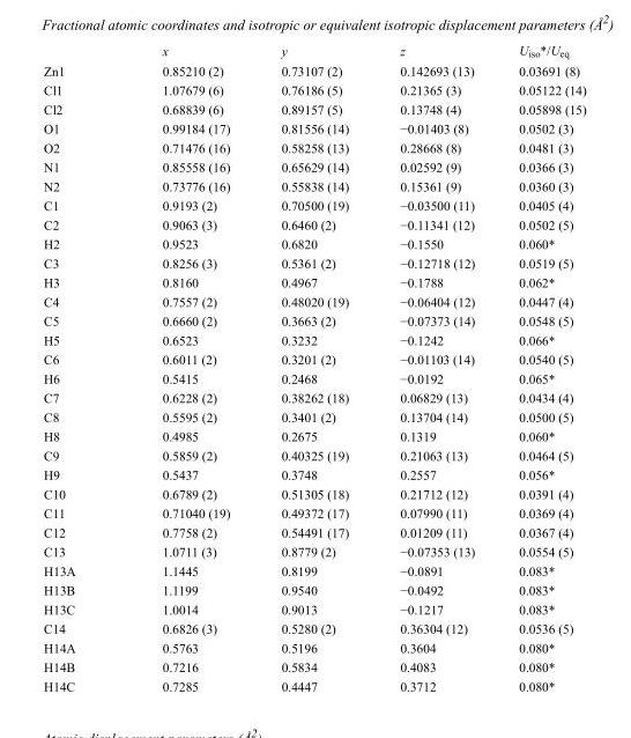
<table><thead><tr><td></td><td>x</td><td>y</td><td>z</td><td>U<sub>iso</sub>*/U<sub>eq</sub></td></tr></thead><tbody><tr><td>Zn1</td><td>0.85210 (2)</td><td>0.73107 (2)</td><td>0.142693 (13)</td><td>0.03691 (8)</td></tr><tr><td>Cl1</td><td>1.07679 (6)</td><td>0.76186 (5)</td><td>0.21365 (3)</td><td>0.05122 (14)</td></tr><tr><td>Cl2</td><td>0.68839 (6)</td><td>0.89157 (5)</td><td>0.13748 (4)</td><td>0.05898 (15)</td></tr><tr><td>O1</td><td>0.99184 (17)</td><td>0.81556 (14)</td><td>−0.01403 (8)</td><td>0.0502 (3)</td></tr><tr><td>O2</td><td>0.71476 (16)</td><td>0.58258 (13)</td><td>0.28668 (8)</td><td>0.0481 (3)</td></tr><tr><td>N1</td><td>0.85558 (16)</td><td>0.65629 (14)</td><td>0.02592 (9)</td><td>0.0366 (3)</td></tr><tr><td>N2</td><td>0.73776 (16)</td><td>0.55838 (14)</td><td>0.15361 (9)</td><td>0.0360 (3)</td></tr><tr><td>C1</td><td>0.9193 (2)</td><td>0.70500 (19)</td><td>−0.03500 (11)</td><td>0.0405 (4)</td></tr><tr><td>C2</td><td>0.9063 (3)</td><td>0.6460 (2)</td><td>−0.11341 (12)</td><td>0.0502 (5)</td></tr><tr><td>H2</td><td>0.9523</td><td>0.6820</td><td>−0.1550</td><td>0.060*</td></tr><tr><td>C3</td><td>0.8256 (3)</td><td>0.5361 (2)</td><td>−0.12718 (12)</td><td>0.0519 (5)</td></tr><tr><td>H3</td><td>0.8160</td><td>0.4967</td><td>−0.1788</td><td>0.062*</td></tr><tr><td>C4</td><td>0.7557 (2)</td><td>0.48020 (19)</td><td>−0.06404 (12)</td><td>0.0447 (4)</td></tr><tr><td>C5</td><td>0.6660 (2)</td><td>0.3663 (2)</td><td>−0.07373 (14)</td><td>0.0548 (5)</td></tr><tr><td>H5</td><td>0.6523</td><td>0.3232</td><td>−0.1242</td><td>0.066*</td></tr><tr><td>C6</td><td>0.6011 (2)</td><td>0.3201 (2)</td><td>−0.01103 (14)</td><td>0.0540 (5)</td></tr><tr><td>H6</td><td>0.5415</td><td>0.2468</td><td>−0.0192</td><td>0.065*</td></tr><tr><td>C7</td><td>0.6228 (2)</td><td>0.38262 (18)</td><td>0.06829 (13)</td><td>0.0434 (4)</td></tr><tr><td>C8</td><td>0.5595 (2)</td><td>0.3401 (2)</td><td>0.13704 (14)</td><td>0.0500 (5)</td></tr><tr><td>H8</td><td>0.4985</td><td>0.2675</td><td>0.1319</td><td>0.060*</td></tr><tr><td>C9</td><td>0.5859 (2)</td><td>0.40325 (19)</td><td>0.21063 (13)</td><td>0.0464 (5)</td></tr><tr><td>H9</td><td>0.5437</td><td>0.3748</td><td>0.2557</td><td>0.056*</td></tr><tr><td>C10</td><td>0.6789 (2)</td><td>0.51305 (18)</td><td>0.21712 (12)</td><td>0.0391 (4)</td></tr><tr><td>C11</td><td>0.71040 (19)</td><td>0.49372 (17)</td><td>0.07990 (11)</td><td>0.0369 (4)</td></tr><tr><td>C12</td><td>0.7758 (2)</td><td>0.54491 (17)</td><td>0.01209 (11)</td><td>0.0367 (4)</td></tr><tr><td>C13</td><td>1.0711 (3)</td><td>0.8779 (2)</td><td>−0.07353 (13)</td><td>0.0554 (5)</td></tr><tr><td>H13A</td><td>1.1445</td><td>0.8199</td><td>−0.0891</td><td>0.083*</td></tr><tr><td>H13B</td><td>1.1199</td><td>0.9540</td><td>−0.0492</td><td>0.083*</td></tr><tr><td>H13C</td><td>1.0014</td><td>0.9013</td><td>−0.1217</td><td>0.083*</td></tr><tr><td>C14</td><td>0.6826 (3)</td><td>0.5280 (2)</td><td>0.36304 (12)</td><td>0.0536 (5)</td></tr><tr><td>H14A</td><td>0.5763</td><td>0.5196</td><td>0.3604</td><td>0.080*</td></tr><tr><td>H14B</td><td>0.7216</td><td>0.5834</td><td>0.4083</td><td>0.080*</td></tr><tr><td>H14C</td><td>0.7285</td><td>0.4447</td><td>0.3712</td><td>0.080*</td></tr></tbody></table>